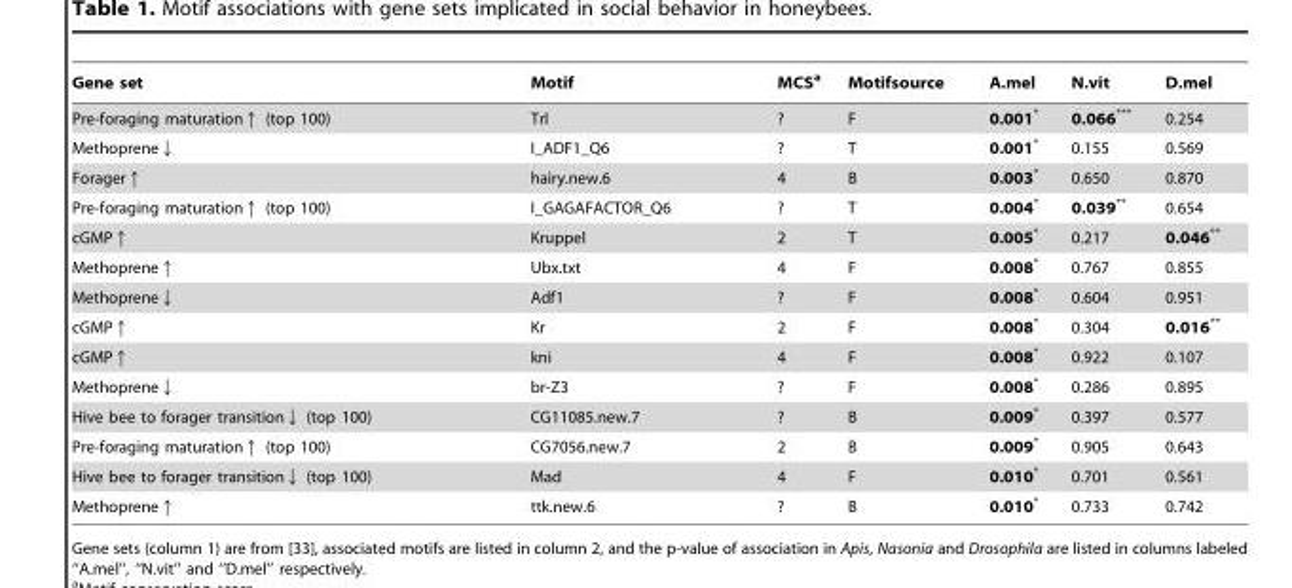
<table><thead><tr><td>Gene set</td><td>Motif</td><td>MCS<sup>a</sup></td><td>Motifsource</td><td>A.mel</td><td>N.vit</td><td>D.mel</td></tr></thead><tbody><tr><td>Pre-foraging maturation↑ (top 100)</td><td>Trl</td><td>?</td><td>F</td><td>0.001*</td><td>0.066***</td><td>0.254</td></tr><tr><td>Methoprene↓</td><td>I_ADF1_Q6</td><td>?</td><td>T</td><td>0.001*</td><td>0.155</td><td>0.569</td></tr><tr><td>Forager↑</td><td>hairy.new.6</td><td>4</td><td>B</td><td>0.003*</td><td>0.650</td><td>0.870</td></tr><tr><td>Pre-foraging maturation↑ (top 100)</td><td>I_GAGAFACTOR_Q6</td><td>?</td><td>T</td><td>0.004*</td><td>0.039**</td><td>0.654</td></tr><tr><td>cGMP↑</td><td>Kruppel</td><td>2</td><td>T</td><td>0.005*</td><td>0.217</td><td>0.046**</td></tr><tr><td>Methoprene↑</td><td>Ubx.txt</td><td>4</td><td>F</td><td>0.008*</td><td>0.767</td><td>0.855</td></tr><tr><td>Methoprene↓</td><td>Adf1</td><td>?</td><td>F</td><td>0.008*</td><td>0.604</td><td>0.951</td></tr><tr><td>cGMP↑</td><td>Kr</td><td>2</td><td>F</td><td>0.008*</td><td>0.304</td><td>0.016**</td></tr><tr><td>cGMP↑</td><td>kni</td><td>4</td><td>F</td><td>0.008*</td><td>0.922</td><td>0.107</td></tr><tr><td>Methoprene↓</td><td>br-Z3</td><td>?</td><td>F</td><td>0.008*</td><td>0.286</td><td>0.895</td></tr><tr><td>Hive bee to forager transition↓ (top 100)</td><td>CG11085.new.7</td><td>?</td><td>B</td><td>0.009*</td><td>0.397</td><td>0.577</td></tr><tr><td>Pre-foraging maturation↑ (top 100)</td><td>CG7056.new.7</td><td>2</td><td>B</td><td>0.009*</td><td>0.905</td><td>0.643</td></tr><tr><td>Hive bee to forager transition↓ (top 100)</td><td>Mad</td><td>4</td><td>F</td><td>0.010*</td><td>0.701</td><td>0.561</td></tr><tr><td>Methoprene↑</td><td>ttk.new.6</td><td>?</td><td>B</td><td>0.010*</td><td>0.733</td><td>0.742</td></tr></tbody></table>